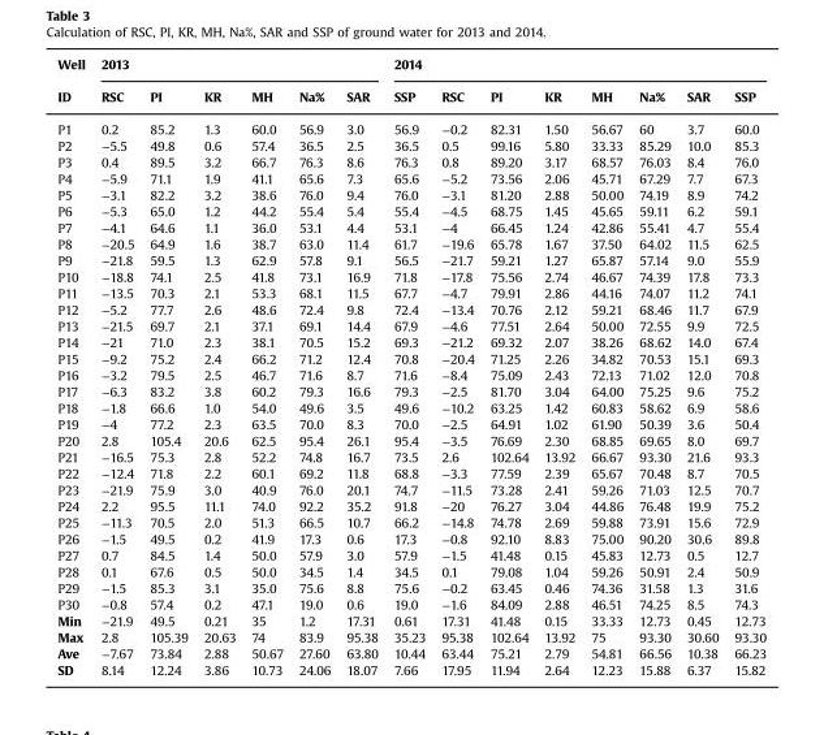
<table><thead><tr><td rowspan="2">Well ID</td><td colspan="6">2013</td><td colspan="8">2014</td></tr><tr><td>RSC</td><td>PI</td><td>KR</td><td>MH</td><td>Na%</td><td>SAR</td><td>SSP</td><td>RSC</td><td>PI</td><td>KR</td><td>MH</td><td>Na%</td><td>SAR</td><td>SSP</td></tr></thead><tbody><tr><td>P1</td><td>0.2</td><td>85.2</td><td>1.3</td><td>60.0</td><td>56.9</td><td>3.0</td><td>56.9</td><td>−0.2</td><td>82.31</td><td>1.50</td><td>56.67</td><td>60</td><td>3.7</td><td>60.0</td></tr><tr><td>P2</td><td>−5.5</td><td>49.8</td><td>0.6</td><td>57.4</td><td>36.5</td><td>2.5</td><td>36.5</td><td>0.5</td><td>99.16</td><td>5.80</td><td>33.33</td><td>85.29</td><td>10.0</td><td>85.3</td></tr><tr><td>P3</td><td>0.4</td><td>89.5</td><td>3.2</td><td>66.7</td><td>76.3</td><td>8.6</td><td>76.3</td><td>0.8</td><td>89.20</td><td>3.17</td><td>68.57</td><td>76.03</td><td>8.4</td><td>76.0</td></tr><tr><td>P4</td><td>−5.9</td><td>71.1</td><td>1.9</td><td>41.1</td><td>65.6</td><td>7.3</td><td>65.6</td><td>−5.2</td><td>73.56</td><td>2.06</td><td>45.71</td><td>67.29</td><td>7.7</td><td>67.3</td></tr><tr><td>P5</td><td>−3.1</td><td>82.2</td><td>3.2</td><td>38.6</td><td>76.0</td><td>9.4</td><td>76.0</td><td>−3.1</td><td>81.20</td><td>2.88</td><td>50.00</td><td>74.19</td><td>8.9</td><td>74.2</td></tr><tr><td>P6</td><td>−5.3</td><td>65.0</td><td>1.2</td><td>44.2</td><td>55.4</td><td>5.4</td><td>55.4</td><td>−4.5</td><td>68.75</td><td>1.45</td><td>45.65</td><td>59.11</td><td>6.2</td><td>59.1</td></tr><tr><td>P7</td><td>−4.1</td><td>64.6</td><td>1.1</td><td>36.0</td><td>53.1</td><td>4.4</td><td>53.1</td><td>−4</td><td>66.45</td><td>1.24</td><td>42.86</td><td>55.41</td><td>4.7</td><td>55.4</td></tr><tr><td>P8</td><td>−20.5</td><td>64.9</td><td>1.6</td><td>38.7</td><td>63.0</td><td>11.4</td><td>61.7</td><td>−19.6</td><td>65.78</td><td>1.67</td><td>37.50</td><td>64.02</td><td>11.5</td><td>62.5</td></tr><tr><td>P9</td><td>−21.8</td><td>59.5</td><td>1.3</td><td>62.9</td><td>57.8</td><td>9.1</td><td>56.5</td><td>−21.7</td><td>59.21</td><td>1.27</td><td>65.87</td><td>57.14</td><td>9.0</td><td>55.9</td></tr><tr><td>P10</td><td>−18.8</td><td>74.1</td><td>2.5</td><td>41.8</td><td>73.1</td><td>16.9</td><td>71.8</td><td>−17.8</td><td>75.56</td><td>2.74</td><td>46.67</td><td>74.39</td><td>17.8</td><td>73.3</td></tr><tr><td>P11</td><td>−13.5</td><td>70.3</td><td>2.1</td><td>53.3</td><td>68.1</td><td>11.5</td><td>67.7</td><td>−4.7</td><td>79.91</td><td>2.86</td><td>44.16</td><td>74.07</td><td>11.2</td><td>74.1</td></tr><tr><td>P12</td><td>−5.2</td><td>77.7</td><td>2.6</td><td>48.6</td><td>72.4</td><td>9.8</td><td>72.4</td><td>−13.4</td><td>70.76</td><td>2.12</td><td>59.21</td><td>68.46</td><td>11.7</td><td>67.9</td></tr><tr><td>P13</td><td>−21.5</td><td>69.7</td><td>2.1</td><td>37.1</td><td>69.1</td><td>14.4</td><td>67.9</td><td>−4.6</td><td>77.51</td><td>2.64</td><td>50.00</td><td>72.55</td><td>9.9</td><td>72.5</td></tr><tr><td>P14</td><td>−21</td><td>71.0</td><td>2.3</td><td>38.1</td><td>70.5</td><td>15.2</td><td>69.3</td><td>−21.2</td><td>69.32</td><td>2.07</td><td>38.26</td><td>68.62</td><td>14.0</td><td>67.4</td></tr><tr><td>P15</td><td>−9.2</td><td>75.2</td><td>2.4</td><td>66.2</td><td>71.2</td><td>12.4</td><td>70.8</td><td>−20.4</td><td>71.25</td><td>2.26</td><td>34.82</td><td>70.53</td><td>15.1</td><td>69.3</td></tr><tr><td>P16</td><td>−3.2</td><td>79.5</td><td>2.5</td><td>46.7</td><td>71.6</td><td>8.7</td><td>71.6</td><td>−8.4</td><td>75.09</td><td>2.43</td><td>72.13</td><td>71.02</td><td>12.0</td><td>70.8</td></tr><tr><td>P17</td><td>−6.3</td><td>83.2</td><td>3.8</td><td>60.2</td><td>79.3</td><td>16.6</td><td>79.3</td><td>−2.5</td><td>81.70</td><td>3.04</td><td>64.00</td><td>75.25</td><td>9.6</td><td>75.2</td></tr><tr><td>P18</td><td>−1.8</td><td>66.6</td><td>1.0</td><td>54.0</td><td>49.6</td><td>3.5</td><td>49.6</td><td>−10.2</td><td>63.25</td><td>1.42</td><td>60.83</td><td>58.62</td><td>6.9</td><td>58.6</td></tr><tr><td>P19</td><td>−4</td><td>77.2</td><td>2.3</td><td>63.5</td><td>70.0</td><td>8.3</td><td>70.0</td><td>−2.5</td><td>64.91</td><td>1.02</td><td>61.90</td><td>50.39</td><td>3.6</td><td>50.4</td></tr><tr><td>P20</td><td>2.8</td><td>105.4</td><td>20.6</td><td>62.5</td><td>95.4</td><td>26.1</td><td>95.4</td><td>−3.5</td><td>76.69</td><td>2.30</td><td>68.85</td><td>69.65</td><td>8.0</td><td>69.7</td></tr><tr><td>P21</td><td>−16.5</td><td>75.3</td><td>2.8</td><td>52.2</td><td>74.8</td><td>16.7</td><td>73.5</td><td>2.6</td><td>102.64</td><td>13.92</td><td>66.67</td><td>93.30</td><td>21.6</td><td>93.3</td></tr><tr><td>P22</td><td>−12.4</td><td>71.8</td><td>2.2</td><td>60.1</td><td>69.2</td><td>11.8</td><td>68.8</td><td>−3.3</td><td>77.59</td><td>2.39</td><td>65.67</td><td>70.48</td><td>8.7</td><td>70.5</td></tr><tr><td>P23</td><td>−21.9</td><td>75.9</td><td>3.0</td><td>40.9</td><td>76.0</td><td>20.1</td><td>74.7</td><td>−11.5</td><td>73.28</td><td>2.41</td><td>59.26</td><td>71.03</td><td>12.5</td><td>70.7</td></tr><tr><td>P24</td><td>2.2</td><td>95.5</td><td>11.1</td><td>74.0</td><td>92.2</td><td>35.2</td><td>91.8</td><td>−20</td><td>76.27</td><td>3.04</td><td>44.86</td><td>76.48</td><td>19.9</td><td>75.2</td></tr><tr><td>P25</td><td>−11.3</td><td>70.5</td><td>2.0</td><td>51.3</td><td>66.5</td><td>10.7</td><td>66.2</td><td>−14.8</td><td>74.78</td><td>2.69</td><td>59.88</td><td>73.91</td><td>15.6</td><td>72.9</td></tr><tr><td>P26</td><td>−1.5</td><td>49.5</td><td>0.2</td><td>41.9</td><td>17.3</td><td>0.6</td><td>17.3</td><td>−0.8</td><td>92.10</td><td>8.83</td><td>75.00</td><td>90.20</td><td>30.6</td><td>89.8</td></tr><tr><td>P27</td><td>0.7</td><td>84.5</td><td>1.4</td><td>50.0</td><td>57.9</td><td>3.0</td><td>57.9</td><td>−1.5</td><td>41.48</td><td>0.15</td><td>45.83</td><td>12.73</td><td>0.5</td><td>12.7</td></tr><tr><td>P28</td><td>0.1</td><td>67.6</td><td>0.5</td><td>50.0</td><td>34.5</td><td>1.4</td><td>34.5</td><td>0.1</td><td>79.08</td><td>1.04</td><td>59.26</td><td>50.91</td><td>2.4</td><td>50.9</td></tr><tr><td>P29</td><td>−1.5</td><td>85.3</td><td>3.1</td><td>35.0</td><td>75.6</td><td>8.8</td><td>75.6</td><td>−0.2</td><td>63.45</td><td>0.46</td><td>74.36</td><td>31.58</td><td>1.3</td><td>31.6</td></tr><tr><td>P30</td><td>−0.8</td><td>57.4</td><td>0.2</td><td>47.1</td><td>19.0</td><td>0.6</td><td>19.0</td><td>−1.6</td><td>84.09</td><td>2.88</td><td>46.51</td><td>74.25</td><td>8.5</td><td>74.3</td></tr><tr><td>Min</td><td>−21.9</td><td>49.5</td><td>0.21</td><td>35</td><td>1.2</td><td>17.31</td><td>0.61</td><td>17.31</td><td>41.48</td><td>0.15</td><td>33.33</td><td>12.73</td><td>0.45</td><td>12.73</td></tr><tr><td>Max</td><td>2.8</td><td>105.39</td><td>20.63</td><td>74</td><td>83.9</td><td>95.38</td><td>35.23</td><td>95.38</td><td>102.64</td><td>13.92</td><td>75</td><td>93.30</td><td>30.60</td><td>93.30</td></tr><tr><td>Ave</td><td>−7.67</td><td>73.84</td><td>2.88</td><td>50.67</td><td>27.60</td><td>63.80</td><td>10.44</td><td>63.44</td><td>75.21</td><td>2.79</td><td>54.81</td><td>66.56</td><td>10.38</td><td>66.23</td></tr><tr><td>SD</td><td>8.14</td><td>12.24</td><td>3.86</td><td>10.73</td><td>24.06</td><td>18.07</td><td>7.66</td><td>17.95</td><td>11.94</td><td>2.64</td><td>12.23</td><td>15.88</td><td>6.37</td><td>15.82</td></tr></tbody></table>